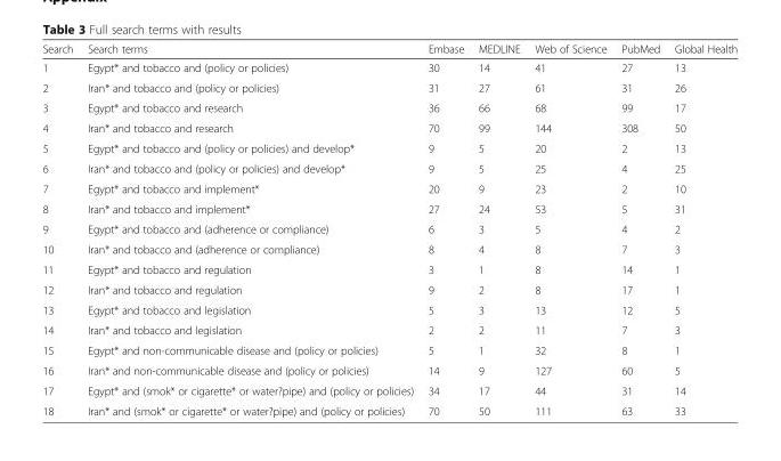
<table><thead><tr><td>Search</td><td>Search terms</td><td>Embase</td><td>MEDLINE</td><td>Web of Science</td><td>PubMed</td><td>Global Health</td></tr></thead><tbody><tr><td>1</td><td>Egypt* and tobacco and (policy or policies)</td><td>30</td><td>14</td><td>41</td><td>27</td><td>13</td></tr><tr><td>2</td><td>Iran* and tobacco and (policy or policies)</td><td>31</td><td>27</td><td>61</td><td>31</td><td>26</td></tr><tr><td>3</td><td>Egypt* and tobacco and research</td><td>36</td><td>66</td><td>68</td><td>99</td><td>17</td></tr><tr><td>4</td><td>Iran* and tobacco and research</td><td>70</td><td>99</td><td>144</td><td>308</td><td>50</td></tr><tr><td>5</td><td>Egypt* and tobacco and (policy or policies) and develop*</td><td>9</td><td>5</td><td>20</td><td>2</td><td>13</td></tr><tr><td>6</td><td>Iran* and tobacco and (policy or policies) and develop*</td><td>9</td><td>5</td><td>25</td><td>4</td><td>25</td></tr><tr><td>7</td><td>Egypt* and tobacco and implement*</td><td>20</td><td>9</td><td>23</td><td>2</td><td>10</td></tr><tr><td>8</td><td>Iran* and tobacco and implement*</td><td>27</td><td>24</td><td>53</td><td>5</td><td>31</td></tr><tr><td>9</td><td>Egypt* and tobacco and (adherence or compliance)</td><td>6</td><td>3</td><td>5</td><td>4</td><td>2</td></tr><tr><td>10</td><td>Iran* and tobacco and (adherence or compliance)</td><td>8</td><td>4</td><td>8</td><td>7</td><td>3</td></tr><tr><td>11</td><td>Egypt* and tobacco and regulation</td><td>3</td><td>1</td><td>8</td><td>14</td><td>1</td></tr><tr><td>12</td><td>Iran* and tobacco and regulation</td><td>9</td><td>2</td><td>8</td><td>17</td><td>1</td></tr><tr><td>13</td><td>Egypt* and tobacco and legislation</td><td>5</td><td>3</td><td>13</td><td>12</td><td>5</td></tr><tr><td>14</td><td>Iran* and tobacco and legislation</td><td>2</td><td>2</td><td>11</td><td>7</td><td>3</td></tr><tr><td>15</td><td>Egypt* and non-communicable disease and (policy or policies)</td><td>5</td><td>1</td><td>32</td><td>8</td><td>1</td></tr><tr><td>16</td><td>Iran* and non-communicable disease and (policy or policies)</td><td>14</td><td>9</td><td>127</td><td>60</td><td>5</td></tr><tr><td>17</td><td>Egypt* and (smok* or cigarette* or water?pipe) and (policy or policies)</td><td>34</td><td>17</td><td>44</td><td>31</td><td>14</td></tr><tr><td>18</td><td>Iran* and (smok* or cigarette* or water?pipe) and (policy or policies)</td><td>70</td><td>50</td><td>111</td><td>63</td><td>33</td></tr></tbody></table>